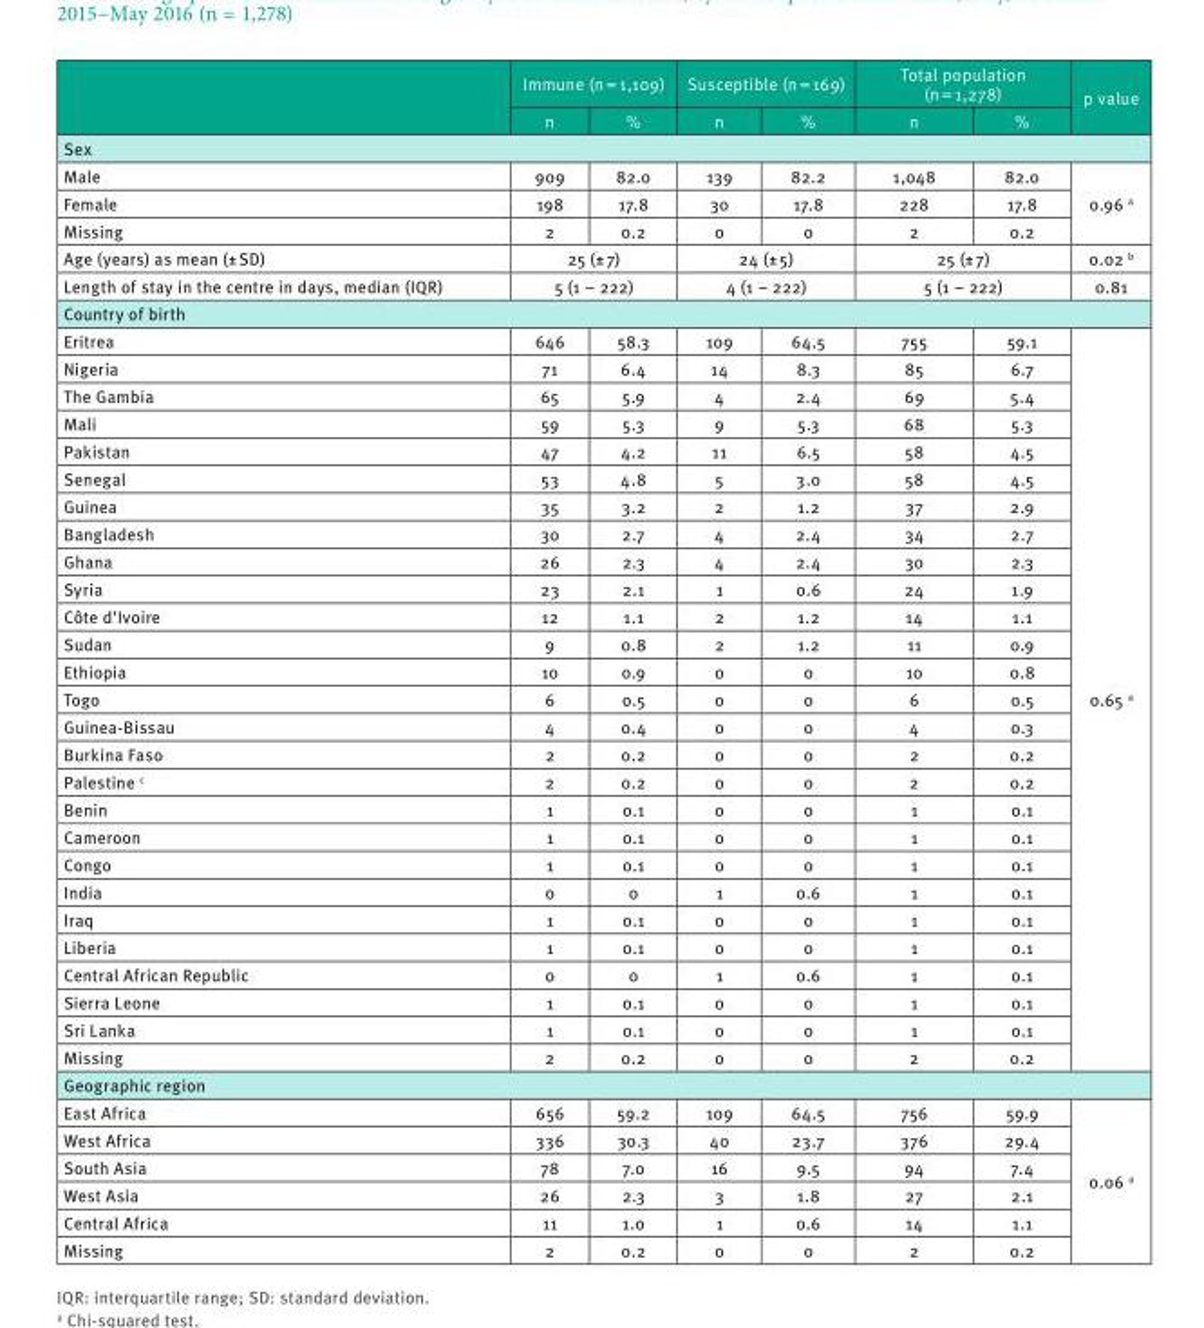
<table><thead><tr><td rowspan="2"></td><td colspan="2">Immune (n = 1,109)</td><td colspan="2">Susceptible (n = 169)</td><td colspan="2">Total population (n = 1,278)</td><td rowspan="2">p value</td></tr><tr><td>n</td><td>%</td><td>n</td><td>%</td><td>n</td><td>%</td></tr></thead><tbody><tr><td colspan="8">Sex</td></tr><tr><td>Male</td><td>909</td><td>82.0</td><td>139</td><td>82.2</td><td>1,048</td><td>82.0</td><td rowspan="3">0.96 <sup>a</sup></td></tr><tr><td>Female</td><td>198</td><td>17.8</td><td>30</td><td>17.8</td><td>228</td><td>17.8</td></tr><tr><td>Missing</td><td>2</td><td>0.2</td><td>0</td><td>0</td><td>2</td><td>0.2</td></tr><tr><td>Age (years) as mean (± SD)</td><td colspan="2">25 (± 7)</td><td colspan="2">24 (± 5)</td><td colspan="2">25 (± 7)</td><td>0.02 <sup>b</sup></td></tr><tr><td>Length of stay in the centre in days, median (IQR)</td><td colspan="2">5 (1 – 222)</td><td colspan="2">4 (1 – 222)</td><td colspan="2">5 (1 – 222)</td><td>0.81</td></tr><tr><td colspan="8">Country of birth</td></tr><tr><td>Eritrea</td><td>646</td><td>58.3</td><td>109</td><td>64.5</td><td>755</td><td>59.1</td><td rowspan="27">0.65 <sup>a</sup></td></tr><tr><td>Nigeria</td><td>71</td><td>6.4</td><td>14</td><td>8.3</td><td>85</td><td>6.7</td></tr><tr><td>The Gambia</td><td>65</td><td>5.9</td><td>4</td><td>2.4</td><td>69</td><td>5.4</td></tr><tr><td>Mali</td><td>59</td><td>5.3</td><td>9</td><td>5.3</td><td>68</td><td>5.3</td></tr><tr><td>Pakistan</td><td>47</td><td>4.2</td><td>11</td><td>6.5</td><td>58</td><td>4.5</td></tr><tr><td>Senegal</td><td>53</td><td>4.8</td><td>5</td><td>3.0</td><td>58</td><td>4.5</td></tr><tr><td>Guinea</td><td>35</td><td>3.2</td><td>2</td><td>1.2</td><td>37</td><td>2.9</td></tr><tr><td>Bangladesh</td><td>30</td><td>2.7</td><td>4</td><td>2.4</td><td>34</td><td>2.7</td></tr><tr><td>Ghana</td><td>26</td><td>2.3</td><td>4</td><td>2.4</td><td>30</td><td>2.3</td></tr><tr><td>Syria</td><td>23</td><td>2.1</td><td>1</td><td>0.6</td><td>24</td><td>1.9</td></tr><tr><td>Côte d’Ivoire</td><td>12</td><td>1.1</td><td>2</td><td>1.2</td><td>14</td><td>1.1</td></tr><tr><td>Sudan</td><td>9</td><td>0.8</td><td>2</td><td>1.2</td><td>11</td><td>0.9</td></tr><tr><td>Ethiopia</td><td>10</td><td>0.9</td><td>0</td><td>0</td><td>10</td><td>0.8</td></tr><tr><td>Togo</td><td>6</td><td>0.5</td><td>0</td><td>0</td><td>6</td><td>0.5</td></tr><tr><td>Guinea-Bissau</td><td>4</td><td>0.4</td><td>0</td><td>0</td><td>4</td><td>0.3</td></tr><tr><td>Burkina Faso</td><td>2</td><td>0.2</td><td>0</td><td>0</td><td>2</td><td>0.2</td></tr><tr><td>Palestine <sup>c</sup></td><td>2</td><td>0.2</td><td>0</td><td>0</td><td>2</td><td>0.2</td></tr><tr><td>Benin</td><td>1</td><td>0.1</td><td>0</td><td>0</td><td>1</td><td>0.1</td></tr><tr><td>Cameroon</td><td>1</td><td>0.1</td><td>0</td><td>0</td><td>1</td><td>0.1</td></tr><tr><td>Congo</td><td>1</td><td>0.1</td><td>0</td><td>0</td><td>1</td><td>0.1</td></tr><tr><td>India</td><td>0</td><td>0</td><td>1</td><td>0.6</td><td>1</td><td>0.1</td></tr><tr><td>Iraq</td><td>1</td><td>0.1</td><td>0</td><td>0</td><td>1</td><td>0.1</td></tr><tr><td>Liberia</td><td>1</td><td>0.1</td><td>0</td><td>0</td><td>1</td><td>0.1</td></tr><tr><td>Central African Republic</td><td>0</td><td>0</td><td>1</td><td>0.6</td><td>1</td><td>0.1</td></tr><tr><td>Sierra Leone</td><td>1</td><td>0.1</td><td>0</td><td>0</td><td>1</td><td>0.1</td></tr><tr><td>Sri Lanka</td><td>1</td><td>0.1</td><td>0</td><td>0</td><td>1</td><td>0.1</td></tr><tr><td>Missing</td><td>2</td><td>0.2</td><td>0</td><td>0</td><td>2</td><td>0.2</td></tr><tr><td colspan="8">Geographic region</td></tr><tr><td>East Africa</td><td>656</td><td>59.2</td><td>109</td><td>64.5</td><td>756</td><td>59.9</td><td rowspan="6">0.06 <sup>a</sup></td></tr><tr><td>West Africa</td><td>336</td><td>30.3</td><td>40</td><td>23.7</td><td>376</td><td>29.4</td></tr><tr><td>South Asia</td><td>78</td><td>7.0</td><td>16</td><td>9.5</td><td>94</td><td>7.4</td></tr><tr><td>West Asia</td><td>26</td><td>2.3</td><td>3</td><td>1.8</td><td>27</td><td>2.1</td></tr><tr><td>Central Africa</td><td>11</td><td>1.0</td><td>1</td><td>0.6</td><td>14</td><td>1.1</td></tr><tr><td>Missing</td><td>2</td><td>0.2</td><td>0</td><td>0</td><td>2</td><td>0.2</td></tr></tbody></table>